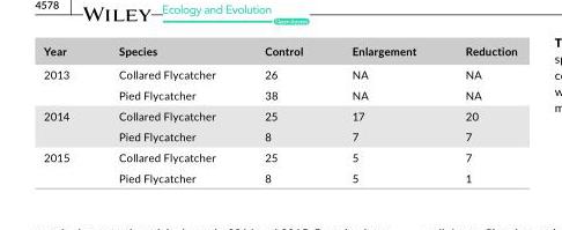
<table><thead><tr><td>Year</td><td>Species</td><td>Control</td><td>Enlargement</td><td>Reduction</td></tr></thead><tbody><tr><td rowspan="2">2013</td><td>Collared Flycatcher</td><td>26</td><td>NA</td><td>NA</td></tr><tr><td>Pied Flycatcher</td><td>38</td><td>NA</td><td>NA</td></tr><tr><td rowspan="2">2014</td><td>Collared Flycatcher</td><td>25</td><td>17</td><td>20</td></tr><tr><td>Pied Flycatcher</td><td>8</td><td>7</td><td>7</td></tr><tr><td rowspan="2">2015</td><td>Collared Flycatcher</td><td>25</td><td>5</td><td>7</td></tr><tr><td>Pied Flycatcher</td><td>8</td><td>5</td><td>1</td></tr></tbody></table>